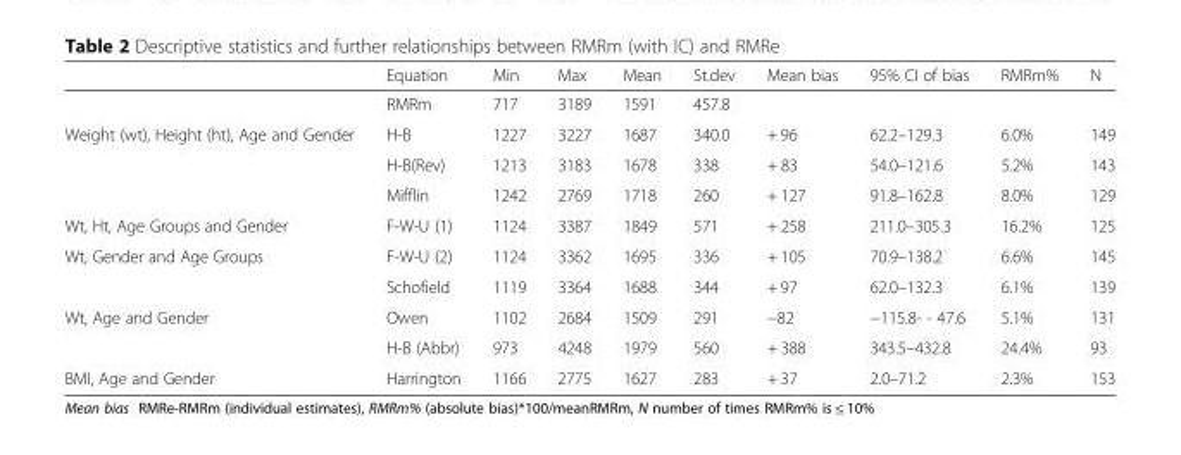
<table><thead><tr><td></td><td>Equation</td><td>Min</td><td>Max</td><td>Mean</td><td>St.dev</td><td>Mean bias</td><td>95% CI of bias</td><td>RMRm%</td><td>N</td></tr></thead><tbody><tr><td></td><td>RMRm</td><td>717</td><td>3189</td><td>1591</td><td>457.8</td><td></td><td></td><td></td><td></td></tr><tr><td rowspan="3">Weight (wt), Height (ht), Age and Gender</td><td>H-B</td><td>1227</td><td>3227</td><td>1687</td><td>340.0</td><td>+ 96</td><td>62.2–129.3</td><td>6.0%</td><td>149</td></tr><tr><td>H-B(Rev)</td><td>1213</td><td>3183</td><td>1678</td><td>338</td><td>+ 83</td><td>54.0–121.6</td><td>5.2%</td><td>143</td></tr><tr><td>Mifflin</td><td>1242</td><td>2769</td><td>1718</td><td>260</td><td>+ 127</td><td>91.8–162.8</td><td>8.0%</td><td>129</td></tr><tr><td>Wt, Ht, Age Groups and Gender</td><td>F-W-U (1)</td><td>1124</td><td>3387</td><td>1849</td><td>571</td><td>+ 258</td><td>211.0–305.3</td><td>16.2%</td><td>125</td></tr><tr><td rowspan="2">Wt, Gender and Age Groups</td><td>F-W-U (2)</td><td>1124</td><td>3362</td><td>1695</td><td>336</td><td>+ 105</td><td>70.9–138.2</td><td>6.6%</td><td>145</td></tr><tr><td>Schofield</td><td>1119</td><td>3364</td><td>1688</td><td>344</td><td>+ 97</td><td>62.0–132.3</td><td>6.1%</td><td>139</td></tr><tr><td rowspan="2">Wt, Age and Gender</td><td>Owen</td><td>1102</td><td>2684</td><td>1509</td><td>291</td><td>−82</td><td>−115.8- - 47.6</td><td>5.1%</td><td>131</td></tr><tr><td>H-B (Abbr)</td><td>973</td><td>4248</td><td>1979</td><td>560</td><td>+ 388</td><td>343.5–432.8</td><td>24.4%</td><td>93</td></tr><tr><td>BMI, Age and Gender</td><td>Harrington</td><td>1166</td><td>2775</td><td>1627</td><td>283</td><td>+ 37</td><td>2.0–71.2</td><td>2.3%</td><td>153</td></tr></tbody></table>